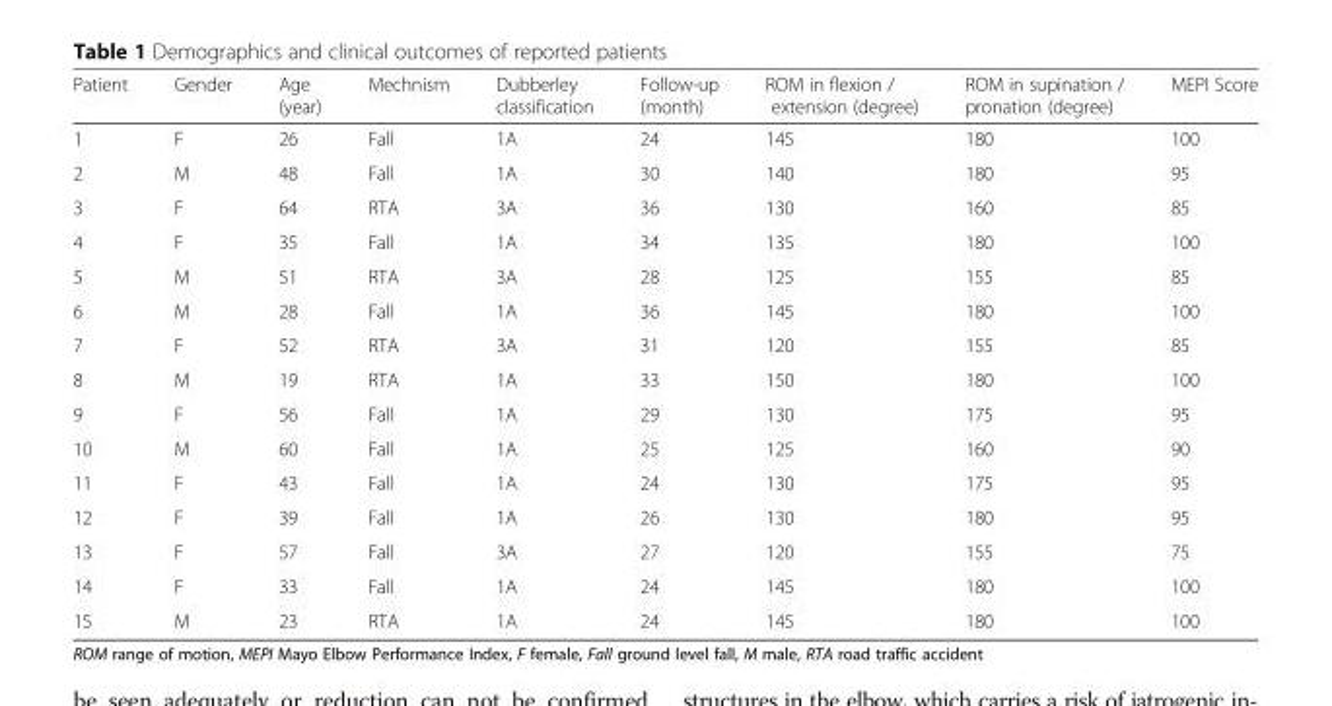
<table><thead><tr><td>Patient</td><td>Gender</td><td>Age (year)</td><td>Mechnism</td><td>Dubberley classification</td><td>Follow-up (month)</td><td>ROM in flexion / extension (degree)</td><td>ROM in supination / pronation (degree)</td><td>MEPI Score</td></tr></thead><tbody><tr><td>1</td><td>F</td><td>26</td><td>Fall</td><td>1A</td><td>24</td><td>145</td><td>180</td><td>100</td></tr><tr><td>2</td><td>M</td><td>48</td><td>Fall</td><td>1A</td><td>30</td><td>140</td><td>180</td><td>95</td></tr><tr><td>3</td><td>F</td><td>64</td><td>RTA</td><td>3A</td><td>36</td><td>130</td><td>160</td><td>85</td></tr><tr><td>4</td><td>F</td><td>35</td><td>Fall</td><td>1A</td><td>34</td><td>135</td><td>180</td><td>100</td></tr><tr><td>5</td><td>M</td><td>51</td><td>RTA</td><td>3A</td><td>28</td><td>125</td><td>155</td><td>85</td></tr><tr><td>6</td><td>M</td><td>28</td><td>Fall</td><td>1A</td><td>36</td><td>145</td><td>180</td><td>100</td></tr><tr><td>7</td><td>F</td><td>52</td><td>RTA</td><td>3A</td><td>31</td><td>120</td><td>155</td><td>85</td></tr><tr><td>8</td><td>M</td><td>19</td><td>RTA</td><td>1A</td><td>33</td><td>150</td><td>180</td><td>100</td></tr><tr><td>9</td><td>F</td><td>56</td><td>Fall</td><td>1A</td><td>29</td><td>130</td><td>175</td><td>95</td></tr><tr><td>10</td><td>M</td><td>60</td><td>Fall</td><td>1A</td><td>25</td><td>125</td><td>160</td><td>90</td></tr><tr><td>11</td><td>F</td><td>43</td><td>Fall</td><td>1A</td><td>24</td><td>130</td><td>175</td><td>95</td></tr><tr><td>12</td><td>F</td><td>39</td><td>Fall</td><td>1A</td><td>26</td><td>130</td><td>180</td><td>95</td></tr><tr><td>13</td><td>F</td><td>57</td><td>Fall</td><td>3A</td><td>27</td><td>120</td><td>155</td><td>75</td></tr><tr><td>14</td><td>F</td><td>33</td><td>Fall</td><td>1A</td><td>24</td><td>145</td><td>180</td><td>100</td></tr><tr><td>15</td><td>M</td><td>23</td><td>RTA</td><td>1A</td><td>24</td><td>145</td><td>180</td><td>100</td></tr></tbody></table>